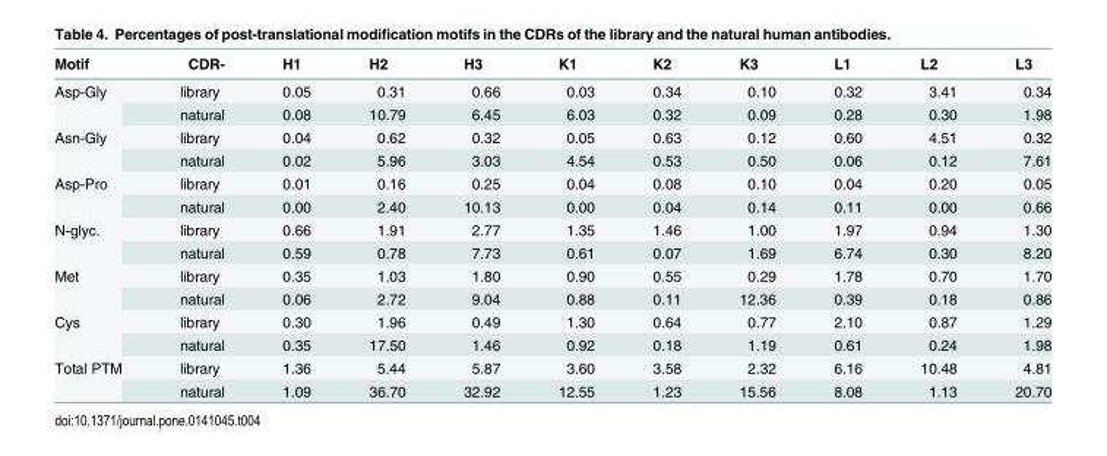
<table><thead><tr><td>Motif</td><td>CDR-</td><td>H1</td><td>H2</td><td>H3</td><td>K1</td><td>K2</td><td>K3</td><td>L1</td><td>L2</td><td>L3</td></tr></thead><tbody><tr><td rowspan="2">Asp-Gly</td><td>library</td><td>0.05</td><td>0.31</td><td>0.66</td><td>0.03</td><td>0.34</td><td>0.10</td><td>0.32</td><td>3.41</td><td>0.34</td></tr><tr><td>natural</td><td>0.08</td><td>10.79</td><td>6.45</td><td>6.03</td><td>0.32</td><td>0.09</td><td>0.28</td><td>0.30</td><td>1.98</td></tr><tr><td rowspan="2">Asn-Gly</td><td>library</td><td>0.04</td><td>0.62</td><td>0.32</td><td>0.05</td><td>0.63</td><td>0.12</td><td>0.60</td><td>4.51</td><td>0.32</td></tr><tr><td>natural</td><td>0.02</td><td>5.96</td><td>3.03</td><td>4.54</td><td>0.53</td><td>0.50</td><td>0.06</td><td>0.12</td><td>7.61</td></tr><tr><td rowspan="2">Asp-Pro</td><td>library</td><td>0.01</td><td>0.16</td><td>0.25</td><td>0.04</td><td>0.08</td><td>0.10</td><td>0.04</td><td>0.20</td><td>0.05</td></tr><tr><td>natural</td><td>0.00</td><td>2.40</td><td>10.13</td><td>0.00</td><td>0.04</td><td>0.14</td><td>0.11</td><td>0.00</td><td>0.66</td></tr><tr><td rowspan="2">N-glyc.</td><td>library</td><td>0.66</td><td>1.91</td><td>2.77</td><td>1.35</td><td>1.46</td><td>1.00</td><td>1.97</td><td>0.94</td><td>1.30</td></tr><tr><td>natural</td><td>0.59</td><td>0.78</td><td>7.73</td><td>0.61</td><td>0.07</td><td>1.69</td><td>6.74</td><td>0.30</td><td>8.20</td></tr><tr><td rowspan="2">Met</td><td>library</td><td>0.35</td><td>1.03</td><td>1.80</td><td>0.90</td><td>0.55</td><td>0.29</td><td>1.78</td><td>0.70</td><td>1.70</td></tr><tr><td>natural</td><td>0.06</td><td>2.72</td><td>9.04</td><td>0.88</td><td>0.11</td><td>12.36</td><td>0.39</td><td>0.18</td><td>0.86</td></tr><tr><td rowspan="2">Cys</td><td>library</td><td>0.30</td><td>1.96</td><td>0.49</td><td>1.30</td><td>0.64</td><td>0.77</td><td>2.10</td><td>0.87</td><td>1.29</td></tr><tr><td>natural</td><td>0.35</td><td>17.50</td><td>1.46</td><td>0.92</td><td>0.18</td><td>1.19</td><td>0.61</td><td>0.24</td><td>1.98</td></tr><tr><td rowspan="2">Total PTM</td><td>library</td><td>1.36</td><td>5.44</td><td>5.87</td><td>3.60</td><td>3.58</td><td>2.32</td><td>6.16</td><td>10.48</td><td>4.81</td></tr><tr><td>natural</td><td>1.09</td><td>36.70</td><td>32.92</td><td>12.55</td><td>1.23</td><td>15.56</td><td>8.08</td><td>1.13</td><td>20.70</td></tr></tbody></table>